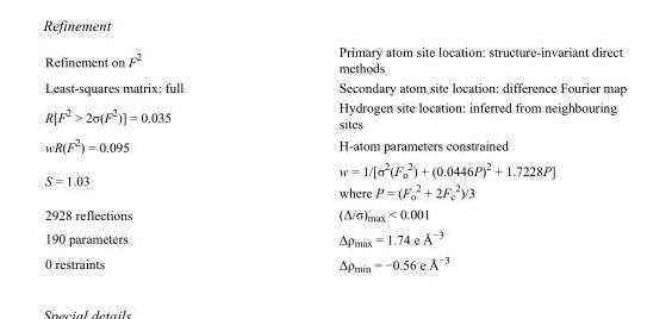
<table><tbody><tr><td>Refinement on F<sup>2</sup></td><td>Primary atom site location: structure-invariant direct methods</td></tr><tr><td>Least-squares matrix: full</td><td>Secondary atom site location: difference Fourier map</td></tr><tr><td>R[F<sup>2</sup> &gt; 2σ(F<sup>2</sup>)] = 0.035</td><td>Hydrogen site location: inferred from neighbouring sites</td></tr><tr><td>wR(F<sup>2</sup>) = 0.095</td><td>H-atom parameters constrained</td></tr><tr><td>S = 1.03</td><td>w = 1/[σ<sup>2</sup>(F<sub>o</sub> <sup>2</sup>) + (0.0446P)<sup>2</sup> + 1.7228P] where P = (F<sub>o</sub> <sup>2</sup> + 2F<sub>c</sub> <sup>2</sup>)/3</td></tr><tr><td>2928 reflections</td><td>(Δ/σ)<sub>max</sub> &lt; 0.001</td></tr><tr><td>190 parameters</td><td>Δρ<sub>max</sub> = 1.74 e Å<sup>−3</sup></td></tr><tr><td>0 restraints</td><td>Δρ<sub>min</sub> = −0.56 e Å<sup>−3</sup></td></tr></tbody></table>